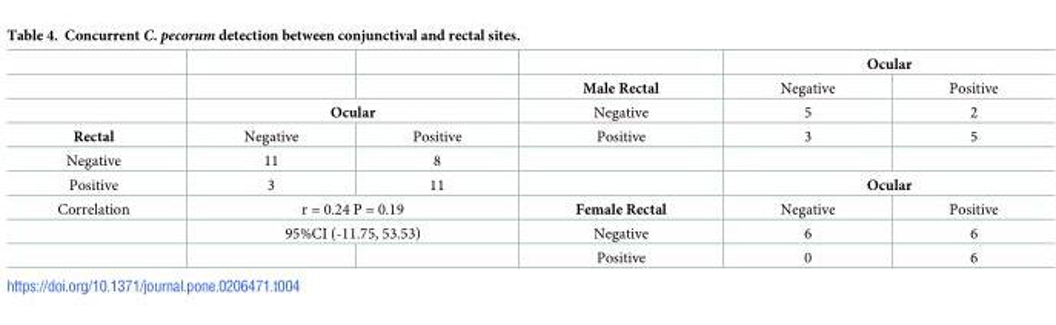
<table><thead><tr><td rowspan="2"></td><td rowspan="2"></td><td rowspan="2"></td><td rowspan="2">Male Rectal</td><td colspan="2">Ocular</td></tr><tr><td>Negative</td><td>Positive</td></tr></thead><tbody><tr><td></td><td colspan="2">Ocular</td><td>Negative</td><td>5</td><td>2</td></tr><tr><td>Rectal</td><td>Negative</td><td>Positive</td><td>Positive</td><td>3</td><td>5</td></tr><tr><td>Negative</td><td>11</td><td>8</td><td></td><td></td><td></td></tr><tr><td>Positive</td><td>3</td><td>11</td><td></td><td colspan="2">Ocular</td></tr><tr><td rowspan="3">Correlation</td><td colspan="2">r = 0.24 P = 0.19</td><td>Female Rectal</td><td>Negative</td><td>Positive</td></tr><tr><td colspan="2">95%CI (-11.75, 53.53)</td><td>Negative</td><td>6</td><td>6</td></tr><tr><td></td><td></td><td>Positive</td><td>0</td><td>6</td></tr></tbody></table>